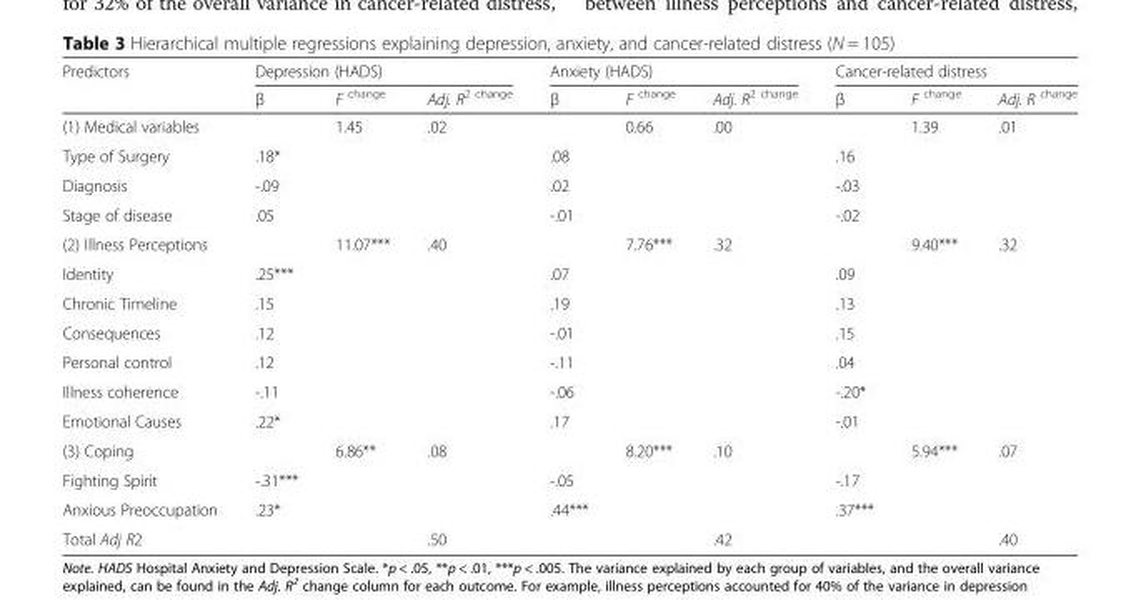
<table><thead><tr><td rowspan="2">Predictors</td><td colspan="3">Depression (HADS)</td><td colspan="3">Anxiety (HADS)</td><td colspan="3">Cancer-related distress</td></tr><tr><td>β</td><td>F <sup>change</sup></td><td>Adj. R<sup>2 change</sup></td><td>β</td><td>F <sup>change</sup></td><td>Adj. R<sup>2 change</sup></td><td>β</td><td>F <sup>change</sup></td><td>Adj. R <sup>change</sup></td></tr></thead><tbody><tr><td>(1) Medical variables</td><td></td><td>1.45</td><td>.02</td><td></td><td>0.66</td><td>.00</td><td></td><td>1.39</td><td>.01</td></tr><tr><td>Type of Surgery</td><td>.18*</td><td></td><td></td><td>.08</td><td></td><td></td><td>.16</td><td></td><td></td></tr><tr><td>Diagnosis</td><td>-.09</td><td></td><td></td><td>.02</td><td></td><td></td><td>-.03</td><td></td><td></td></tr><tr><td>Stage of disease</td><td>.05</td><td></td><td></td><td>-.01</td><td></td><td></td><td>-.02</td><td></td><td></td></tr><tr><td>(2) Illness Perceptions</td><td></td><td>11.07***</td><td>.40</td><td></td><td>7.76***</td><td>.32</td><td></td><td>9.40***</td><td>.32</td></tr><tr><td>Identity</td><td>.25***</td><td></td><td></td><td>.07</td><td></td><td></td><td>.09</td><td></td><td></td></tr><tr><td>Chronic Timeline</td><td>.15</td><td></td><td></td><td>.19</td><td></td><td></td><td>.13</td><td></td><td></td></tr><tr><td>Consequences</td><td>.12</td><td></td><td></td><td>-.01</td><td></td><td></td><td>.15</td><td></td><td></td></tr><tr><td>Personal control</td><td>.12</td><td></td><td></td><td>-.11</td><td></td><td></td><td>.04</td><td></td><td></td></tr><tr><td>Illness coherence</td><td>-.11</td><td></td><td></td><td>-.06</td><td></td><td></td><td>-.20*</td><td></td><td></td></tr><tr><td>Emotional Causes</td><td>.22*</td><td></td><td></td><td>.17</td><td></td><td></td><td>-.01</td><td></td><td></td></tr><tr><td>(3) Coping</td><td></td><td>6.86**</td><td>.08</td><td></td><td>8.20***</td><td>.10</td><td></td><td>5.94***</td><td>.07</td></tr><tr><td>Fighting Spirit</td><td>-.31***</td><td></td><td></td><td>-.05</td><td></td><td></td><td>-.17</td><td></td><td></td></tr><tr><td>Anxious Preoccupation</td><td>.23*</td><td></td><td></td><td>.44***</td><td></td><td></td><td>.37***</td><td></td><td></td></tr><tr><td>Total Adj R2</td><td></td><td></td><td>.50</td><td></td><td></td><td>.42</td><td></td><td></td><td>.40</td></tr></tbody></table>